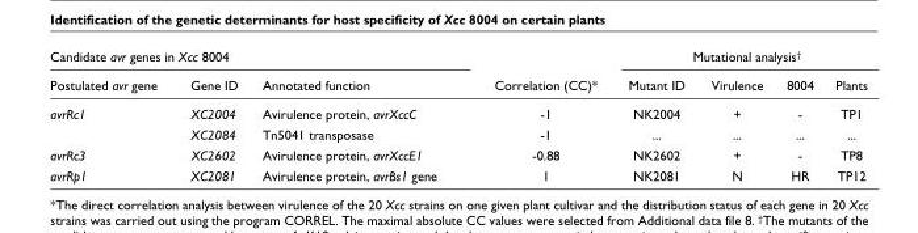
<table><thead><tr><td colspan="3">Candidate avr genes in Xcc 8004</td><td rowspan="2">Correlation (CC)*</td><td colspan="4">Mutational analysis<sup>†</sup></td></tr><tr><td>Postulated avr gene</td><td>Gene ID</td><td>Annotated function</td><td>Mutant ID</td><td>Virulence</td><td>8004</td><td>Plants</td></tr></thead><tbody><tr><td rowspan="2">avrRc1</td><td>XC2004</td><td>Avirulence protein, avrXccC</td><td>-1</td><td>NK2004</td><td>+</td><td>-</td><td>TP1</td></tr><tr><td>XC2084</td><td>Tn5041 transposase</td><td>-1</td><td>...</td><td>...</td><td>...</td><td>...</td></tr><tr><td>avrRc3</td><td>XC2602</td><td>Avirulence protein, avrXccE1</td><td>-0.88</td><td>NK2602</td><td>+</td><td>-</td><td>TP8</td></tr><tr><td>avrRp1</td><td>XC2081</td><td>Avirulence protein, avrBs1 gene</td><td>1</td><td>NK2081</td><td>N</td><td>HR</td><td>TP12</td></tr></tbody></table>